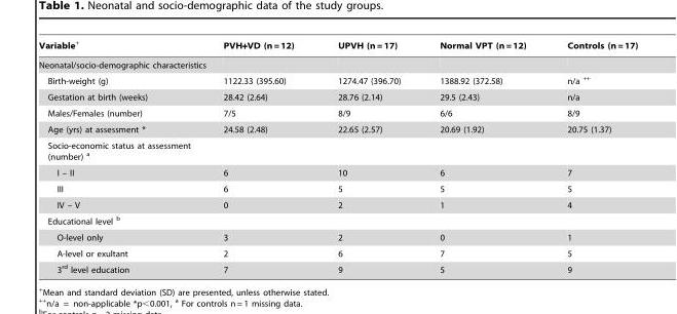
<table><thead><tr><td>Variable+</td><td>PVH+VD (n = 12)</td><td>UPVH (n = 17)</td><td>Normal VPT (n = 12)</td><td>Controls (n = 17)</td></tr></thead><tbody><tr><td colspan="5">Neonatal/socio-demographic characteristics</td></tr><tr><td>Birth-weight (g)</td><td>1122.33 (395.60)</td><td>1274.47 (396.70)</td><td>1388.92 (372.58)</td><td>n/a ++</td></tr><tr><td>Gestation at birth (weeks)</td><td>28.42 (2.64)</td><td>28.76 (2.14)</td><td>29.5 (2.43)</td><td>n/a</td></tr><tr><td>Males/Females (number)</td><td>7/5</td><td>8/9</td><td>6/6</td><td>8/9</td></tr><tr><td>Age (yrs) at assessment *</td><td>24.58 (2.48)</td><td>22.65 (2.57)</td><td>20.69 (1.92)</td><td>20.75 (1.37)</td></tr><tr><td colspan="5">Socio-economic status at assessment (number) <sup>a</sup></td></tr><tr><td>I – II</td><td>6</td><td>10</td><td>6</td><td>7</td></tr><tr><td>III</td><td>6</td><td>5</td><td>5</td><td>5</td></tr><tr><td>IV – V</td><td>0</td><td>2</td><td>1</td><td>4</td></tr><tr><td colspan="5">Educational level b</td></tr><tr><td>O-level only</td><td>3</td><td>2</td><td>0</td><td>1</td></tr><tr><td>A-level or exultant</td><td>2</td><td>6</td><td>7</td><td>5</td></tr><tr><td>3<sup>rd</sup> level education</td><td>7</td><td>9</td><td>5</td><td>9</td></tr></tbody></table>